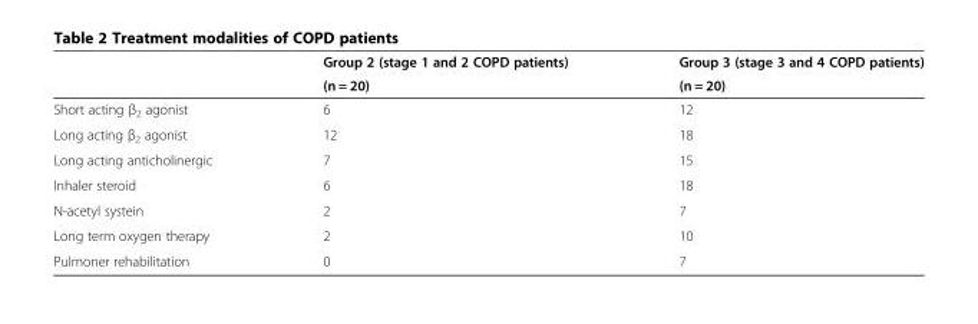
<table><thead><tr><td rowspan="2"></td><td rowspan="2">Group 2 (stage 1 and 2 COPD patients) (n = 20)</td><td rowspan="2">Group 3 (stage 3 and 4 COPD patients) (n = 20)</td></tr><tr></tr></thead><tbody><tr><td>Short acting β<sub>2</sub> agonist</td><td>6</td><td>12</td></tr><tr><td>Long acting β<sub>2</sub> agonist</td><td>12</td><td>18</td></tr><tr><td>Long acting anticholinergic</td><td>7</td><td>15</td></tr><tr><td>Inhaler steroid</td><td>6</td><td>18</td></tr><tr><td>N-acetyl systein</td><td>2</td><td>7</td></tr><tr><td>Long term oxygen therapy</td><td>2</td><td>10</td></tr><tr><td>Pulmoner rehabilitation</td><td>0</td><td>7</td></tr></tbody></table>